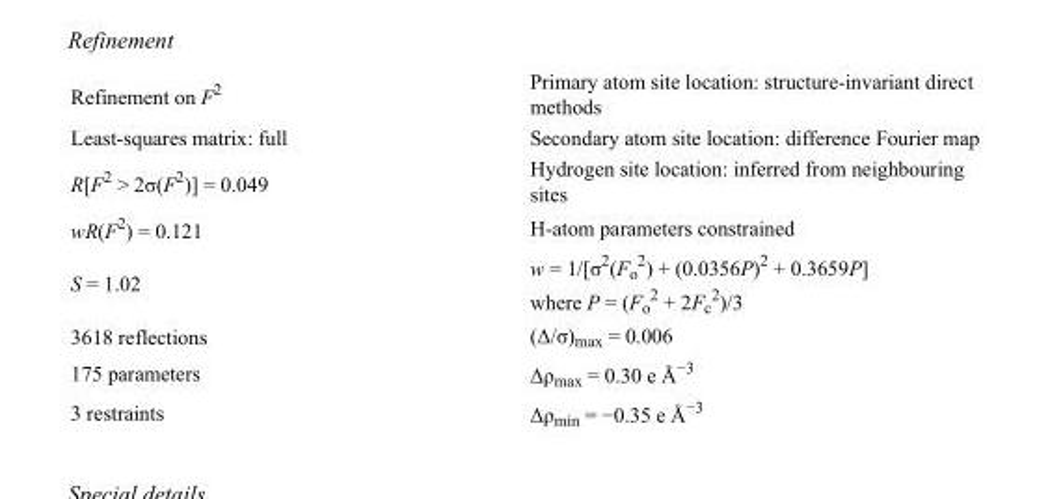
<table><tbody><tr><td>Refinement on F<sup>2</sup></td><td>Primary atom site location: structure-invariant direct methods</td></tr><tr><td>Least-squares matrix: full</td><td>Secondary atom site location: difference Fourier map</td></tr><tr><td>R[F<sup>2</sup> &gt; 2σ(F<sup>2</sup>)] = 0.049</td><td>Hydrogen site location: inferred from neighbouring sites</td></tr><tr><td>wR(F<sup>2</sup>) = 0.121</td><td>H-atom parameters constrained</td></tr><tr><td>S = 1.02</td><td>w = 1/[σ<sup>2</sup>(F<sub>o</sub> <sup>2</sup>) + (0.0356P)<sup>2</sup> + 0.3659P] where P = (F<sub>o</sub> <sup>2</sup> + 2F<sub>c</sub> <sup>2</sup>)/3</td></tr><tr><td>3618 reflections</td><td>(Δ/σ)<sub>max</sub> = 0.006</td></tr><tr><td>175 parameters</td><td>Δρ<sub>max</sub> = 0.30 e Å<sup>−3</sup></td></tr><tr><td>3 restraints</td><td>Δρ<sub>min</sub> = −0.35 e Å<sup>−3</sup></td></tr></tbody></table>